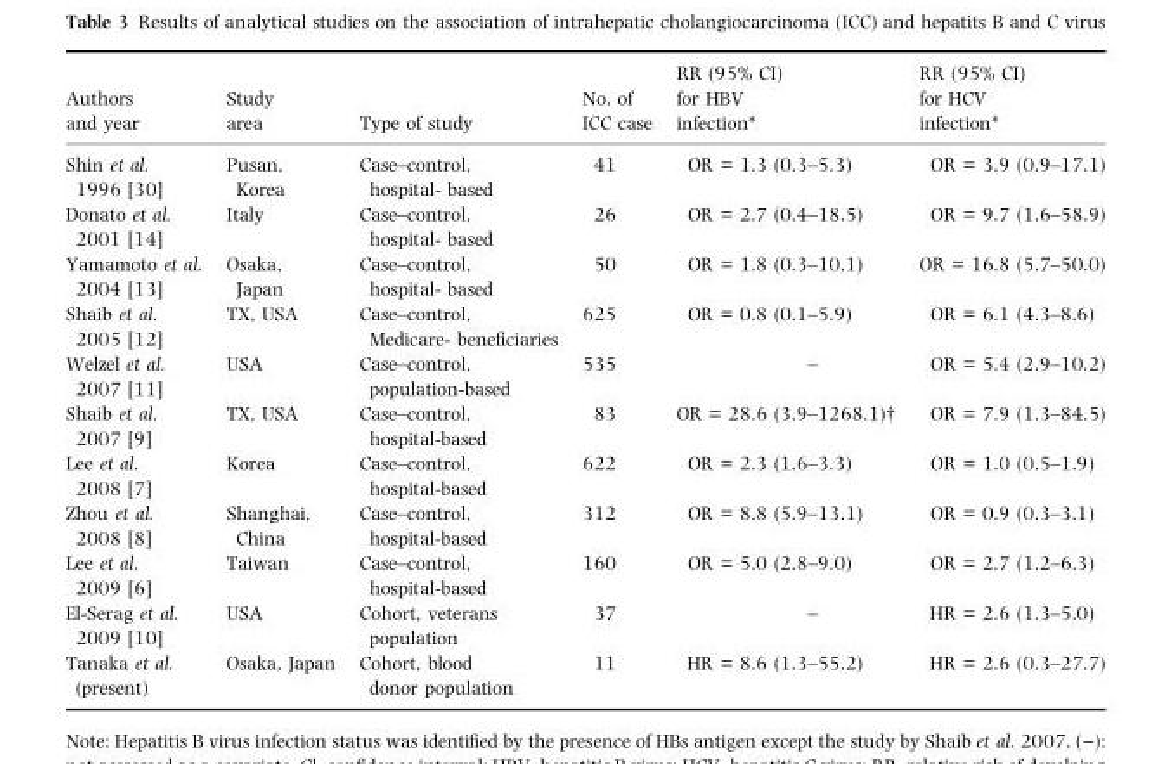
<table><thead><tr><td>Authors and year</td><td>Study area</td><td>Type of study</td><td>No. of ICC case</td><td>RR (95% CI) for HBV infection*</td><td>RR (95% CI) for HCV infection*</td></tr></thead><tbody><tr><td>Shin et al. 1996 [30]</td><td>Pusan, Korea</td><td>Case–control, hospital- based</td><td>41</td><td>OR = 1.3 (0.3–5.3)</td><td>OR = 3.9 (0.9–17.1)</td></tr><tr><td>Donato et al. 2001 [14]</td><td>Italy</td><td>Case–control, hospital- based</td><td>26</td><td>OR = 2.7 (0.4–18.5)</td><td>OR = 9.7 (1.6–58.9)</td></tr><tr><td>Yamamoto et al. 2004 [13]</td><td>Osaka, Japan</td><td>Case–control, hospital- based</td><td>50</td><td>OR = 1.8 (0.3–10.1)</td><td>OR = 16.8 (5.7–50.0)</td></tr><tr><td>Shaib et al. 2005 [12]</td><td>TX, USA</td><td>Case–control, Medicare- beneficiaries</td><td>625</td><td>OR = 0.8 (0.1–5.9)</td><td>OR = 6.1 (4.3–8.6)</td></tr><tr><td>Welzel et al. 2007 [11]</td><td>USA</td><td>Case–control, population-based</td><td>535</td><td>–</td><td>OR = 5.4 (2.9–10.2)</td></tr><tr><td>Shaib et al. 2007 [9]</td><td>TX, USA</td><td>Case–control, hospital-based</td><td>83</td><td>OR = 28.6 (3.9–1268.1)†</td><td>OR = 7.9 (1.3–84.5)</td></tr><tr><td>Lee et al. 2008 [7]</td><td>Korea</td><td>Case–control, hospital-based</td><td>622</td><td>OR = 2.3 (1.6–3.3)</td><td>OR = 1.0 (0.5–1.9)</td></tr><tr><td>Zhou et al. 2008 [8]</td><td>Shanghai, China</td><td>Case–control, hospital-based</td><td>312</td><td>OR = 8.8 (5.9–13.1)</td><td>OR = 0.9 (0.3–3.1)</td></tr><tr><td>Lee et al. 2009 [6]</td><td>Taiwan</td><td>Case–control, hospital-based</td><td>160</td><td>OR = 5.0 (2.8–9.0)</td><td>OR = 2.7 (1.2–6.3)</td></tr><tr><td>El-Serag et al. 2009 [10]</td><td>USA</td><td>Cohort, veterans population</td><td>37</td><td>–</td><td>HR = 2.6 (1.3–5.0)</td></tr><tr><td>Tanaka et al. (present)</td><td>Osaka, Japan</td><td>Cohort, blood donor population</td><td>11</td><td>HR = 8.6 (1.3–55.2)</td><td>HR = 2.6 (0.3–27.7)</td></tr></tbody></table>